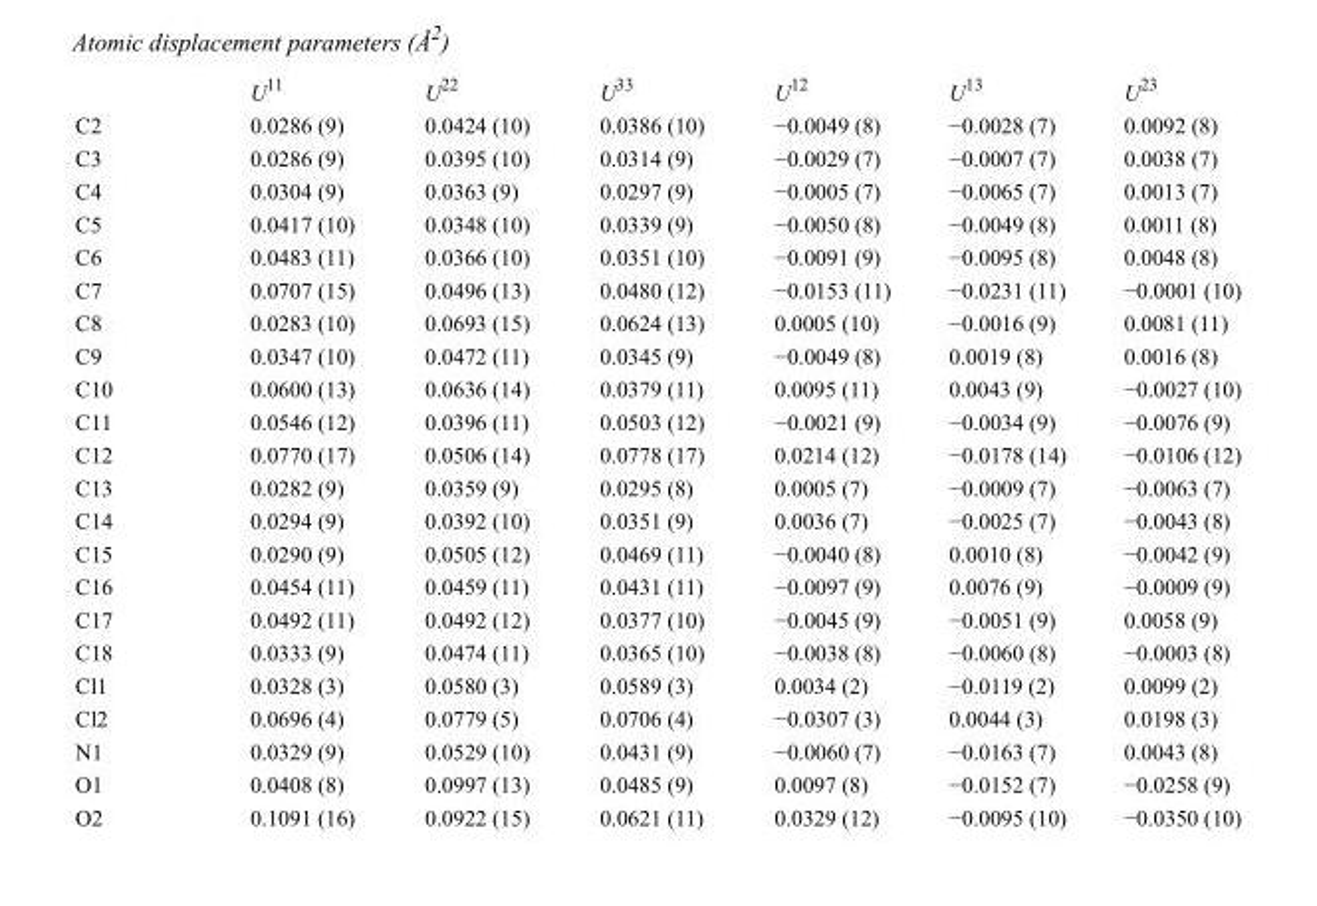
<table><thead><tr><td></td><td>U<sup>11</sup></td><td>U<sup>22</sup></td><td>U<sup>33</sup></td><td>U<sup>12</sup></td><td>U<sup>13</sup></td><td>U<sup>23</sup></td></tr></thead><tbody><tr><td>C2</td><td>0.0286 (9)</td><td>0.0424 (10)</td><td>0.0386 (10)</td><td>−0.0049 (8)</td><td>−0.0028 (7)</td><td>0.0092 (8)</td></tr><tr><td>C3</td><td>0.0286 (9)</td><td>0.0395 (10)</td><td>0.0314 (9)</td><td>−0.0029 (7)</td><td>−0.0007 (7)</td><td>0.0038 (7)</td></tr><tr><td>C4</td><td>0.0304 (9)</td><td>0.0363 (9)</td><td>0.0297 (9)</td><td>−0.0005 (7)</td><td>−0.0065 (7)</td><td>0.0013 (7)</td></tr><tr><td>C5</td><td>0.0417 (10)</td><td>0.0348 (10)</td><td>0.0339 (9)</td><td>−0.0050 (8)</td><td>−0.0049 (8)</td><td>0.0011 (8)</td></tr><tr><td>C6</td><td>0.0483 (11)</td><td>0.0366 (10)</td><td>0.0351 (10)</td><td>−0.0091 (9)</td><td>−0.0095 (8)</td><td>0.0048 (8)</td></tr><tr><td>C7</td><td>0.0707 (15)</td><td>0.0496 (13)</td><td>0.0480 (12)</td><td>−0.0153 (11)</td><td>−0.0231 (11)</td><td>−0.0001 (10)</td></tr><tr><td>C8</td><td>0.0283 (10)</td><td>0.0693 (15)</td><td>0.0624 (13)</td><td>0.0005 (10)</td><td>−0.0016 (9)</td><td>0.0081 (11)</td></tr><tr><td>C9</td><td>0.0347 (10)</td><td>0.0472 (11)</td><td>0.0345 (9)</td><td>−0.0049 (8)</td><td>0.0019 (8)</td><td>0.0016 (8)</td></tr><tr><td>C10</td><td>0.0600 (13)</td><td>0.0636 (14)</td><td>0.0379 (11)</td><td>0.0095 (11)</td><td>0.0043 (9)</td><td>−0.0027 (10)</td></tr><tr><td>C11</td><td>0.0546 (12)</td><td>0.0396 (11)</td><td>0.0503 (12)</td><td>−0.0021 (9)</td><td>−0.0034 (9)</td><td>−0.0076 (9)</td></tr><tr><td>C12</td><td>0.0770 (17)</td><td>0.0506 (14)</td><td>0.0778 (17)</td><td>0.0214 (12)</td><td>−0.0178 (14)</td><td>−0.0106 (12)</td></tr><tr><td>C13</td><td>0.0282 (9)</td><td>0.0359 (9)</td><td>0.0295 (8)</td><td>0.0005 (7)</td><td>−0.0009 (7)</td><td>−0.0063 (7)</td></tr><tr><td>C14</td><td>0.0294 (9)</td><td>0.0392 (10)</td><td>0.0351 (9)</td><td>0.0036 (7)</td><td>−0.0025 (7)</td><td>−0.0043 (8)</td></tr><tr><td>C15</td><td>0.0290 (9)</td><td>0.0505 (12)</td><td>0.0469 (11)</td><td>−0.0040 (8)</td><td>0.0010 (8)</td><td>−0.0042 (9)</td></tr><tr><td>C16</td><td>0.0454 (11)</td><td>0.0459 (11)</td><td>0.0431 (11)</td><td>−0.0097 (9)</td><td>0.0076 (9)</td><td>−0.0009 (9)</td></tr><tr><td>C17</td><td>0.0492 (11)</td><td>0.0492 (12)</td><td>0.0377 (10)</td><td>−0.0045 (9)</td><td>−0.0051 (9)</td><td>0.0058 (9)</td></tr><tr><td>C18</td><td>0.0333 (9)</td><td>0.0474 (11)</td><td>0.0365 (10)</td><td>−0.0038 (8)</td><td>−0.0060 (8)</td><td>−0.0003 (8)</td></tr><tr><td>Cl1</td><td>0.0328 (3)</td><td>0.0580 (3)</td><td>0.0589 (3)</td><td>0.0034 (2)</td><td>−0.0119 (2)</td><td>0.0099 (2)</td></tr><tr><td>Cl2</td><td>0.0696 (4)</td><td>0.0779 (5)</td><td>0.0706 (4)</td><td>−0.0307 (3)</td><td>0.0044 (3)</td><td>0.0198 (3)</td></tr><tr><td>N1</td><td>0.0329 (9)</td><td>0.0529 (10)</td><td>0.0431 (9)</td><td>−0.0060 (7)</td><td>−0.0163 (7)</td><td>0.0043 (8)</td></tr><tr><td>O1</td><td>0.0408 (8)</td><td>0.0997 (13)</td><td>0.0485 (9)</td><td>0.0097 (8)</td><td>−0.0152 (7)</td><td>−0.0258 (9)</td></tr><tr><td>O2</td><td>0.1091 (16)</td><td>0.0922 (15)</td><td>0.0621 (11)</td><td>0.0329 (12)</td><td>−0.0095 (10)</td><td>−0.0350 (10)</td></tr></tbody></table>